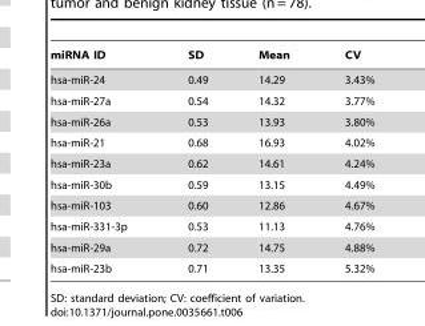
<table><thead><tr><td>miRNA ID</td><td>SD</td><td>Mean</td><td>CV</td></tr></thead><tbody><tr><td>hsa-miR-24</td><td>0.49</td><td>14.29</td><td>3.43%</td></tr><tr><td>hsa-miR-27a</td><td>0.54</td><td>14.32</td><td>3.77%</td></tr><tr><td>hsa-miR-26a</td><td>0.53</td><td>13.93</td><td>3.80%</td></tr><tr><td>hsa-miR-21</td><td>0.68</td><td>16.93</td><td>4.02%</td></tr><tr><td>hsa-miR-23a</td><td>0.62</td><td>14.61</td><td>4.24%</td></tr><tr><td>hsa-miR-30b</td><td>0.59</td><td>13.15</td><td>4.49%</td></tr><tr><td>hsa-miR-103</td><td>0.60</td><td>12.86</td><td>4.67%</td></tr><tr><td>hsa-miR-331-3p</td><td>0.53</td><td>11.13</td><td>4.76%</td></tr><tr><td>hsa-miR-29a</td><td>0.72</td><td>14.75</td><td>4.88%</td></tr><tr><td>hsa-miR-23b</td><td>0.71</td><td>13.35</td><td>5.32%</td></tr></tbody></table>